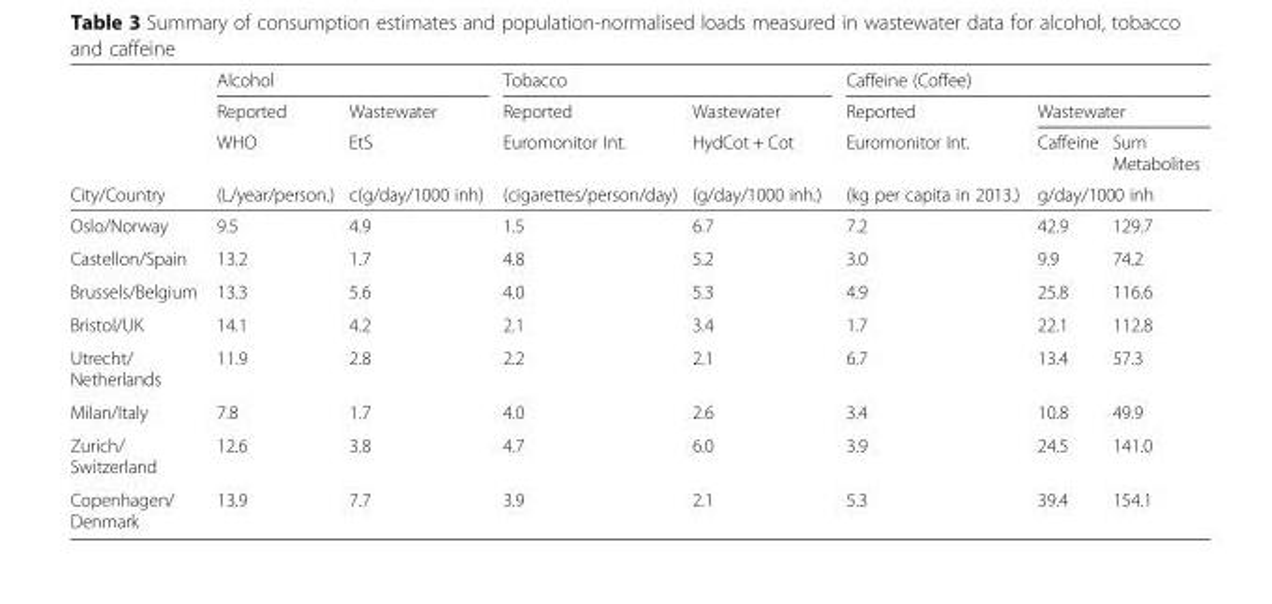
<table><thead><tr><td rowspan="4">City/Country</td><td colspan="2">Alcohol</td><td colspan="2">Tobacco</td><td colspan="3">Caffeine (Coffee)</td></tr><tr><td rowspan="3">Reported WHO (L/year/person.)</td><td rowspan="3">Wastewater EtS c(g/day/1000 inh)</td><td rowspan="3">Reported Euromonitor Int. (cigarettes/person/day)</td><td rowspan="3">Wastewater HydCot + Cot (g/day/1000 inh.)</td><td rowspan="3">Reported Euromonitor Int. (kg per capita in 2013.)</td><td colspan="2">Wastewater</td></tr><tr><td>Caffeine</td><td>Sum Metabolites</td></tr><tr><td colspan="2">g/day/1000 inh</td></tr></thead><tbody><tr><td>Oslo/Norway</td><td>9.5</td><td>4.9</td><td>1.5</td><td>6.7</td><td>7.2</td><td>42.9</td><td>129.7</td></tr><tr><td>Castellon/Spain</td><td>13.2</td><td>1.7</td><td>4.8</td><td>5.2</td><td>3.0</td><td>9.9</td><td>74.2</td></tr><tr><td>Brussels/Belgium</td><td>13.3</td><td>5.6</td><td>4.0</td><td>5.3</td><td>4.9</td><td>25.8</td><td>116.6</td></tr><tr><td>Bristol/UK</td><td>14.1</td><td>4.2</td><td>2.1</td><td>3.4</td><td>1.7</td><td>22.1</td><td>112.8</td></tr><tr><td>Utrecht/ Netherlands</td><td>11.9</td><td>2.8</td><td>2.2</td><td>2.1</td><td>6.7</td><td>13.4</td><td>57.3</td></tr><tr><td>Milan/Italy</td><td>7.8</td><td>1.7</td><td>4.0</td><td>2.6</td><td>3.4</td><td>10.8</td><td>49.9</td></tr><tr><td>Zurich/ Switzerland</td><td>12.6</td><td>3.8</td><td>4.7</td><td>6.0</td><td>3.9</td><td>24.5</td><td>141.0</td></tr><tr><td>Copenhagen/ Denmark</td><td>13.9</td><td>7.7</td><td>3.9</td><td>2.1</td><td>5.3</td><td>39.4</td><td>154.1</td></tr></tbody></table>